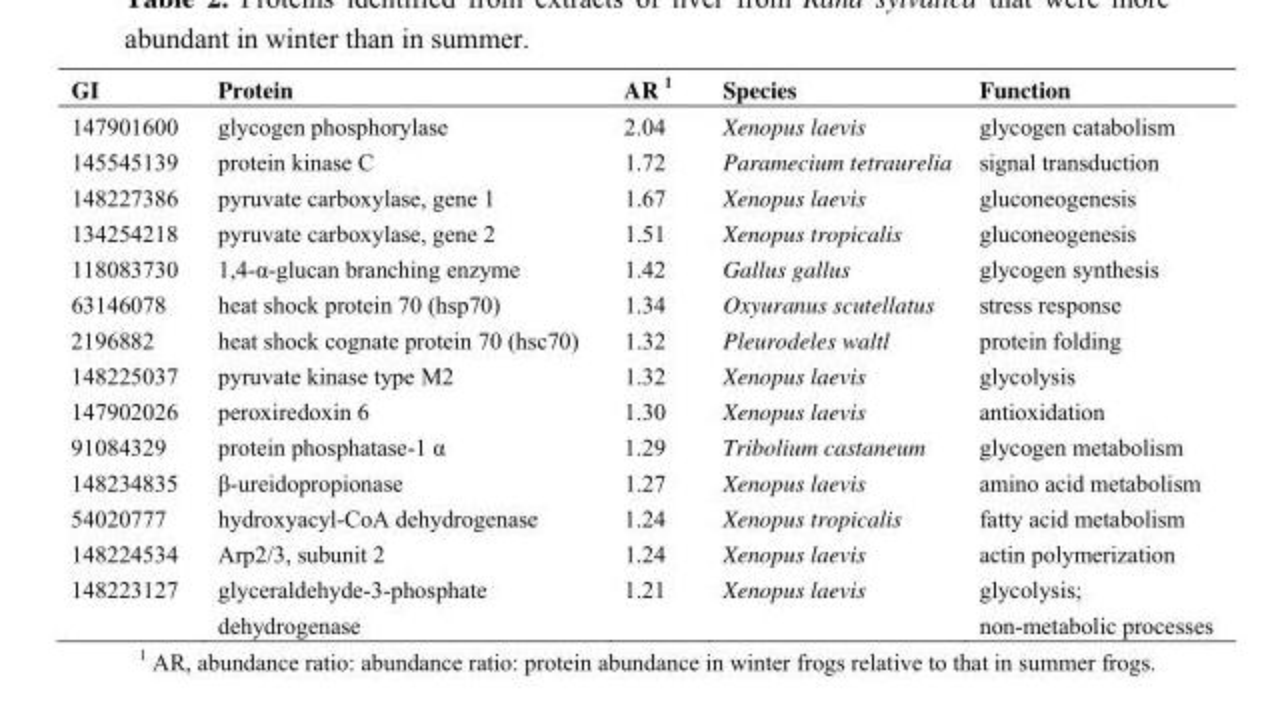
<table><thead><tr><td>GI</td><td>Protein</td><td>AR 1</td><td>Species</td><td>Function</td></tr></thead><tbody><tr><td>147901600</td><td>glycogen phosphorylase</td><td>2.04</td><td>Xenopus laevis</td><td>glycogen catabolism</td></tr><tr><td>145545139</td><td>protein kinase C</td><td>1.72</td><td>Paramecium tetraurelia</td><td>signal transduction</td></tr><tr><td>148227386</td><td>pyruvate carboxylase, gene 1</td><td>1.67</td><td>Xenopus laevis</td><td>gluconeogenesis</td></tr><tr><td>134254218</td><td>pyruvate carboxylase, gene 2</td><td>1.51</td><td>Xenopus tropicalis</td><td>gluconeogenesis</td></tr><tr><td>118083730</td><td>1,4-α-glucan branching enzyme</td><td>1.42</td><td>Gallus gallus</td><td>glycogen synthesis</td></tr><tr><td>63146078</td><td>heat shock protein 70 (hsp70)</td><td>1.34</td><td>Oxyuranus scutellatus</td><td>stress response</td></tr><tr><td>2196882</td><td>heat shock cognate protein 70 (hsc70)</td><td>1.32</td><td>Pleurodeles waltl</td><td>protein folding</td></tr><tr><td>148225037</td><td>pyruvate kinase type M2</td><td>1.32</td><td>Xenopus laevis</td><td>glycolysis</td></tr><tr><td>147902026</td><td>peroxiredoxin 6</td><td>1.30</td><td>Xenopus laevis</td><td>antioxidation</td></tr><tr><td>91084329</td><td>protein phosphatase-1 α</td><td>1.29</td><td>Tribolium castaneum</td><td>glycogen metabolism</td></tr><tr><td>148234835</td><td>β-ureidopropionase</td><td>1.27</td><td>Xenopus laevis</td><td>amino acid metabolism</td></tr><tr><td>54020777</td><td>hydroxyacyl-CoA dehydrogenase</td><td>1.24</td><td>Xenopus tropicalis</td><td>fatty acid metabolism</td></tr><tr><td>148224534</td><td>Arp2/3, subunit 2</td><td>1.24</td><td>Xenopus laevis</td><td>actin polymerization</td></tr><tr><td>148223127</td><td>glyceraldehyde-3-phosphate dehydrogenase</td><td>1.21</td><td>Xenopus laevis</td><td>glycolysis; non-metabolic processes</td></tr></tbody></table>